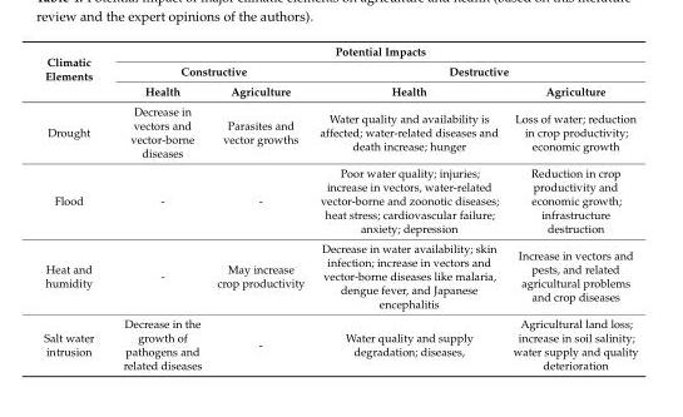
<table><thead><tr><td rowspan="3">Climatic Elements</td><td colspan="4">Potential Impacts</td></tr><tr><td colspan="2">Constructive</td><td colspan="2">Destructive</td></tr><tr><td>Health</td><td>Agriculture</td><td>Health</td><td>Agriculture</td></tr></thead><tbody><tr><td>Drought</td><td>Decrease in vectors and vector-borne diseases</td><td>Parasites and vector growths</td><td>Water quality and availability is affected; water-related diseases and death increase; hunger</td><td>Loss of water; reduction in crop productivity; economic growth</td></tr><tr><td>Flood</td><td>-</td><td>-</td><td>Poor water quality; injuries; increase in vectors, water-related vector-borne and zoonotic diseases; heat stress; cardiovascular failure; anxiety; depression</td><td>Reduction in crop productivity and economic growth; infrastructure destruction</td></tr><tr><td>Heat and humidity</td><td>-</td><td>May increase crop productivity</td><td>Decrease in water availability; skin infection; increase in vectors and vector-borne diseases like malaria, dengue fever, and Japanese encephalitis</td><td>Increase in vectors and pests, and related agricultural problems and crop diseases</td></tr><tr><td>Salt water intrusion</td><td>Decrease in the growth of pathogens and related diseases</td><td>-</td><td>Water quality and supply degradation; diseases,</td><td>Agricultural land loss; increase in soil salinity; water supply and quality deterioration</td></tr></tbody></table>